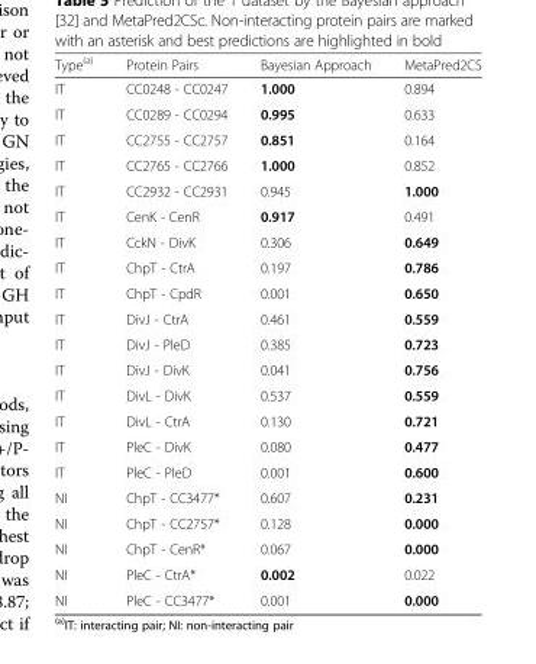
<table><thead><tr><td>Type<sup>(a)</sup></td><td>Protein Pairs</td><td>Bayesian Approach</td><td>MetaPred2CS</td></tr></thead><tbody><tr><td>IT</td><td>CC0248 - CC0247</td><td>1.000</td><td>0.894</td></tr><tr><td>IT</td><td>CC0289 - CC0294</td><td>0.995</td><td>0.633</td></tr><tr><td>IT</td><td>CC2755 - CC2757</td><td>0.851</td><td>0.164</td></tr><tr><td>IT</td><td>CC2765 - CC2766</td><td>1.000</td><td>0.852</td></tr><tr><td>IT</td><td>CC2932 - CC2931</td><td>0.945</td><td>1.000</td></tr><tr><td>IT</td><td>CenK - CenR</td><td>0.917</td><td>0.491</td></tr><tr><td>IT</td><td>CckN - DivK</td><td>0.306</td><td>0.649</td></tr><tr><td>IT</td><td>ChpT - CtrA</td><td>0.197</td><td>0.786</td></tr><tr><td>IT</td><td>ChpT - CpdR</td><td>0.001</td><td>0.650</td></tr><tr><td>IT</td><td>DivJ - CtrA</td><td>0.461</td><td>0.559</td></tr><tr><td>IT</td><td>DivJ - PleD</td><td>0.385</td><td>0.723</td></tr><tr><td>IT</td><td>DivJ - DivK</td><td>0.041</td><td>0.756</td></tr><tr><td>IT</td><td>DivL - DivK</td><td>0.537</td><td>0.559</td></tr><tr><td>IT</td><td>DivL - CtrA</td><td>0.130</td><td>0.721</td></tr><tr><td>IT</td><td>PleC - DivK</td><td>0.080</td><td>0.477</td></tr><tr><td>IT</td><td>PleC - PleD</td><td>0.001</td><td>0.600</td></tr><tr><td>NI</td><td>ChpT - CC3477*</td><td>0.607</td><td>0.231</td></tr><tr><td>NI</td><td>ChpT - CC2757*</td><td>0.128</td><td>0.000</td></tr><tr><td>NI</td><td>ChpT - CenR*</td><td>0.067</td><td>0.000</td></tr><tr><td>NI</td><td>PleC - CtrA*</td><td>0.002</td><td>0.022</td></tr><tr><td>NI</td><td>PleC - CC3477*</td><td>0.001</td><td>0.000</td></tr></tbody></table>